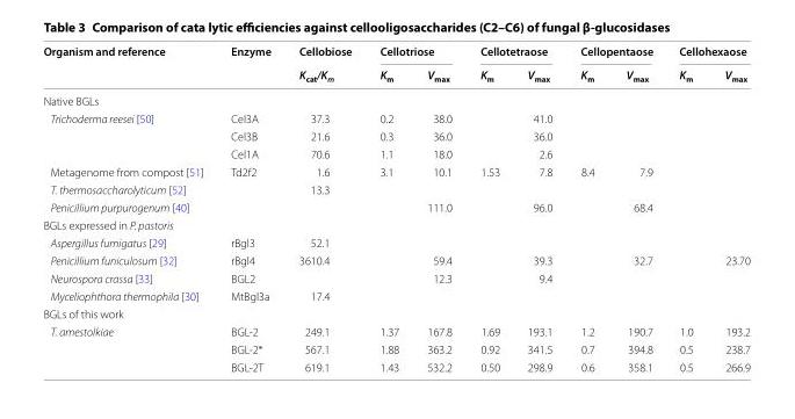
<table><thead><tr><td rowspan="2">Organism and reference</td><td rowspan="2">Enzyme</td><td rowspan="2">Cellobiose K<sub>cat</sub>/K<sub>m</sub></td><td colspan="2">Cellotriose</td><td colspan="2">Cellotetraose</td><td colspan="2">Cellopentaose</td><td colspan="2">Cellohexaose</td></tr><tr><td>K<sub>m</sub></td><td>V<sub>max</sub></td><td>K<sub>m</sub></td><td>V<sub>max</sub></td><td>K<sub>m</sub></td><td>V<sub>max</sub></td><td>K<sub>m</sub></td><td>V<sub>max</sub></td></tr></thead><tbody><tr><td colspan="11">Native BGLs</td></tr><tr><td rowspan="3">Trichoderma reesei [50]</td><td>Cel3A</td><td>37.3</td><td>0.2</td><td>38.0</td><td></td><td>41.0</td><td></td><td></td><td></td><td></td></tr><tr><td>Cel3B</td><td>21.6</td><td>0.3</td><td>36.0</td><td></td><td>36.0</td><td></td><td></td><td></td><td></td></tr><tr><td>Cel1A</td><td>70.6</td><td>1.1</td><td>18.0</td><td></td><td>2.6</td><td></td><td></td><td></td><td></td></tr><tr><td>Metagenome from compost [51]</td><td>Td2f2</td><td>1.6</td><td>3.1</td><td>10.1</td><td>1.53</td><td>7.8</td><td>8.4</td><td>7.9</td><td></td><td></td></tr><tr><td>T. thermosaccharolyticum [52]</td><td></td><td>13.3</td><td></td><td></td><td></td><td></td><td></td><td></td><td></td><td></td></tr><tr><td>Penicillium purpurogenum [40]</td><td></td><td></td><td></td><td>111.0</td><td></td><td>96.0</td><td></td><td>68.4</td><td></td><td></td></tr><tr><td colspan="11">BGLs expressed in P. pastoris</td></tr><tr><td>Aspergillus fumigatus [29]</td><td>rBgl3</td><td>52.1</td><td></td><td></td><td></td><td></td><td></td><td></td><td></td><td></td></tr><tr><td>Penicillium funiculosum [32]</td><td>rBgl4</td><td>3610.4</td><td></td><td>59.4</td><td></td><td>39.3</td><td></td><td>32.7</td><td></td><td>23.70</td></tr><tr><td>Neurospora crassa [33]</td><td>BGL2</td><td></td><td></td><td>12.3</td><td></td><td>9.4</td><td></td><td></td><td></td><td></td></tr><tr><td>Myceliophthora thermophila [30]</td><td>MtBgl3a</td><td>17.4</td><td></td><td></td><td></td><td></td><td></td><td></td><td></td><td></td></tr><tr><td colspan="11">BGLs of this work</td></tr><tr><td rowspan="3">T. amestolkiae</td><td>BGL‑2</td><td>249.1</td><td>1.37</td><td>167.8</td><td>1.69</td><td>193.1</td><td>1.2</td><td>190.7</td><td>1.0</td><td>193.2</td></tr><tr><td>BGL‑2*</td><td>567.1</td><td>1.88</td><td>363.2</td><td>0.92</td><td>341.5</td><td>0.7</td><td>394.8</td><td>0.5</td><td>238.7</td></tr><tr><td>BGL‑2T</td><td>619.1</td><td>1.43</td><td>532.2</td><td>0.50</td><td>298.9</td><td>0.6</td><td>358.1</td><td>0.5</td><td>266.9</td></tr></tbody></table>